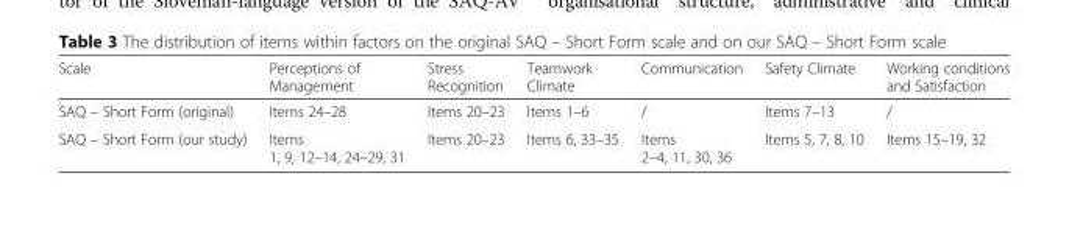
<table><thead><tr><td>Scale</td><td>Perceptions of Management</td><td>Stress Recognition</td><td>Teamwork Climate</td><td>Communication</td><td>Safety Climate</td><td>Working conditions and Satisfaction</td></tr></thead><tbody><tr><td>SAQ – Short Form (original)</td><td>Items 24–28</td><td>Items 20–23</td><td>Items 1–6</td><td>/</td><td>Items 7–13</td><td>/</td></tr><tr><td>SAQ – Short Form (our study)</td><td>Items 1, 9, 12–14, 24–29, 31</td><td>Items 20–23</td><td>Items 6, 33–35</td><td>Items 2–4, 11, 30, 36</td><td>Items 5, 7, 8, 10</td><td>Items 15–19, 32</td></tr></tbody></table>